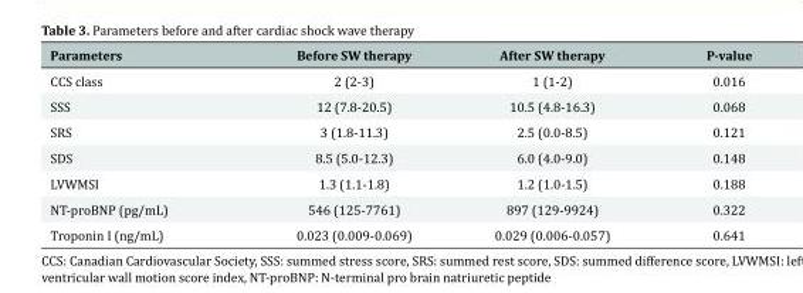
<table><thead><tr><td>Parameters</td><td>Before SW therapy</td><td>After SW therapy</td><td>P-value</td></tr></thead><tbody><tr><td>CCS class</td><td>2 (2-3)</td><td>1 (1-2)</td><td>0.016</td></tr><tr><td>SSS</td><td>12 (7.8-20.5)</td><td>10.5 (4.8-16.3)</td><td>0.068</td></tr><tr><td>SRS</td><td>3 (1.8-11.3)</td><td>2.5 (0.0-8.5)</td><td>0.121</td></tr><tr><td>SDS</td><td>8.5 (5.0-12.3)</td><td>6.0 (4.0-9.0)</td><td>0.148</td></tr><tr><td>LVWMSI</td><td>1.3 (1.1-1.8)</td><td>1.2 (1.0-1.5)</td><td>0.188</td></tr><tr><td>NT-proBNP (pg/mL)</td><td>546 (125-7761)</td><td>897 (129-9924)</td><td>0.322</td></tr><tr><td>Troponin I (ng/mL)</td><td>0.023 (0.009-0.069)</td><td>0.029 (0.006-0.057)</td><td>0.641</td></tr></tbody></table>